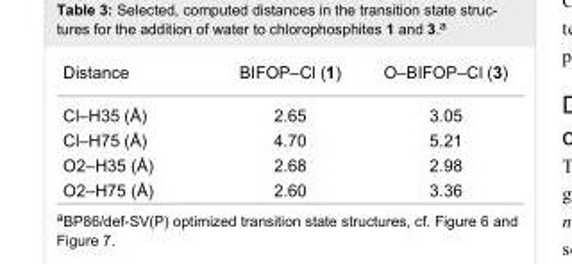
<table><tbody><tr><td>Distance</td><td>BIFOP–Cl (1)</td><td>O–BIFOP–Cl (3)</td></tr><tr><td>Cl–H35 (Å)</td><td>2.65</td><td>3.05</td></tr><tr><td>Cl–H75 (Å)</td><td>4.70</td><td>5.21</td></tr><tr><td>O2–H35 (Å)</td><td>2.68</td><td>2.98</td></tr><tr><td>O2–H75 (Å)</td><td>2.60</td><td>3.36</td></tr></tbody></table>